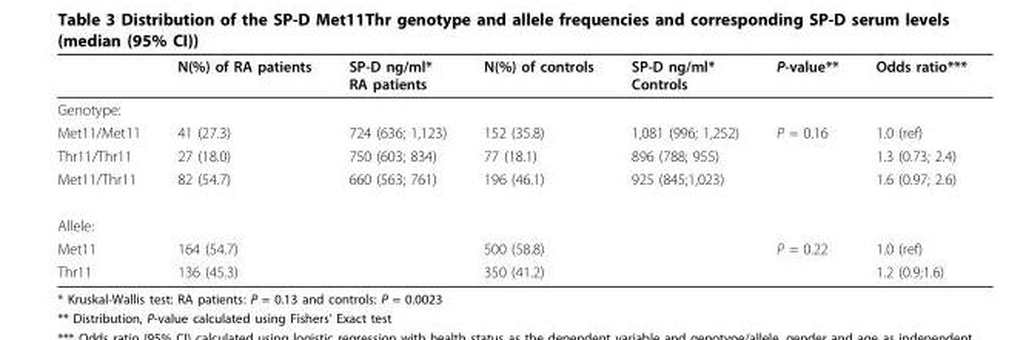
<table><thead><tr><td></td><td>N(%) of RA patients</td><td>SP-D ng/ml* RA patients</td><td>N(%) of controls</td><td>SP-D ng/ml* Controls</td><td>P-value**</td><td>Odds ratio***</td></tr></thead><tbody><tr><td colspan="7">Genotype:</td></tr><tr><td>Met11/Met11</td><td>41 (27.3)</td><td>724 (636; 1,123)</td><td>152 (35.8)</td><td>1,081 (996; 1,252)</td><td>P = 0.16</td><td>1.0 (ref)</td></tr><tr><td>Thr11/Thr11</td><td>27 (18.0)</td><td>750 (603; 834)</td><td>77 (18.1)</td><td>896 (788; 955)</td><td></td><td>1.3 (0.73; 2.4)</td></tr><tr><td>Met11/Thr11</td><td>82 (54.7)</td><td>660 (563; 761)</td><td>196 (46.1)</td><td>925 (845;1,023)</td><td></td><td>1.6 (0.97; 2.6)</td></tr><tr><td colspan="7">Allele:</td></tr><tr><td>Met11</td><td>164 (54.7)</td><td></td><td>500 (58.8)</td><td></td><td>P = 0.22</td><td>1.0 (ref)</td></tr><tr><td>Thr11</td><td>136 (45.3)</td><td></td><td>350 (41.2)</td><td></td><td></td><td>1.2 (0.9;1.6)</td></tr></tbody></table>